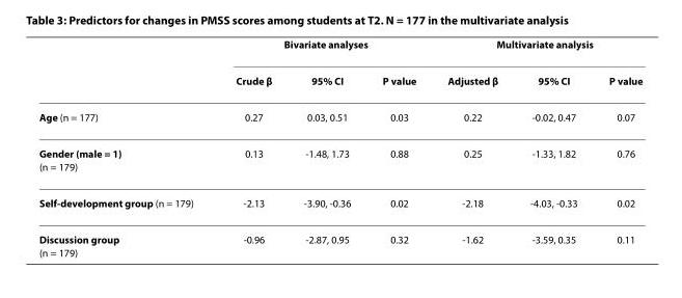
<table><thead><tr><td rowspan="2"></td><td colspan="3">Bivariate analyses</td><td colspan="3">Multivariate analysis</td></tr><tr><td>Crude β</td><td>95% CI</td><td>P value</td><td>Adjusted β</td><td>95% CI</td><td>P value</td></tr></thead><tbody><tr><td>Age (n = 177)</td><td>0.27</td><td>0.03, 0.51</td><td>0.03</td><td>0.22</td><td>-0.02, 0.47</td><td>0.07</td></tr><tr><td>Gender (male = 1) (n = 179)</td><td>0.13</td><td>-1.48, 1.73</td><td>0.88</td><td>0.25</td><td>-1.33, 1.82</td><td>0.76</td></tr><tr><td>Self-development group (n = 179)</td><td>-2.13</td><td>-3.90, -0.36</td><td>0.02</td><td>-2.18</td><td>-4.03, -0.33</td><td>0.02</td></tr><tr><td>Discussion group (n = 179)</td><td>-0.96</td><td>-2.87, 0.95</td><td>0.32</td><td>-1.62</td><td>-3.59, 0.35</td><td>0.11</td></tr></tbody></table>